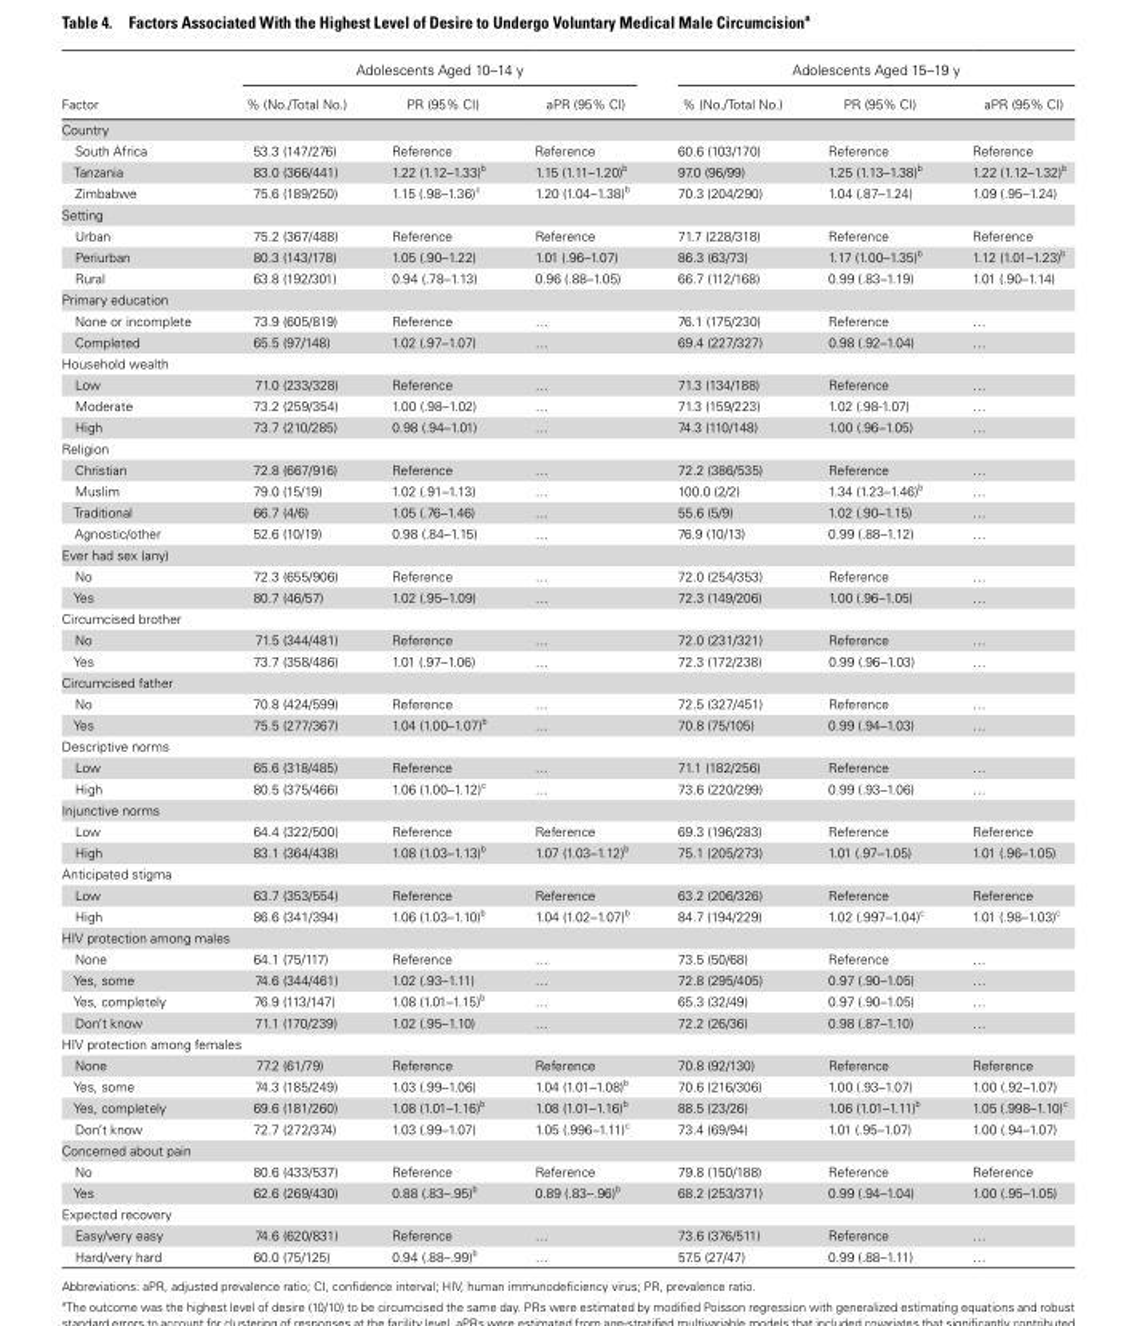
<table><thead><tr><td rowspan="2">Factor</td><td colspan="3">Adolescents Aged 10–14 y</td><td colspan="3">Adolescents Aged 15–19 y</td></tr><tr><td>% (No./Total No.)</td><td>PR (95% CI)</td><td>aPR (95% CI)</td><td>% (No./Total No.)</td><td>PR (95% CI)</td><td>aPR (95% CI)</td></tr></thead><tbody><tr><td colspan="7">Country</td></tr><tr><td>South Africa</td><td>53.3 (147/276)</td><td>Reference</td><td>Reference</td><td>60.6 (103/170)</td><td>Reference</td><td>Reference</td></tr><tr><td>Tanzania</td><td>83.0 (366/441)</td><td>1.22 (1.12–1.33)<sup>b</sup></td><td>1.15 (1.11–1.20)<sup>b</sup></td><td>97.0 (96/99)</td><td>1.25 (1.13–1.38)<sup>b</sup></td><td>1.22 (1.12–1.32)<sup>b</sup></td></tr><tr><td>Zimbabwe</td><td>75.6 (189/250)</td><td>1.15 (.98–1.36)<sup>c</sup></td><td>1.20 (1.04–1.38)<sup>b</sup></td><td>70.3 (204/290)</td><td>1.04 (.87–1.24)</td><td>1.09 (.95–1.24)</td></tr><tr><td colspan="7">Setting</td></tr><tr><td>Urban</td><td>75.2 (367/488)</td><td>Reference</td><td>Reference</td><td>71.7 (228/318)</td><td>Reference</td><td>Reference</td></tr><tr><td>Periurban</td><td>80.3 (143/178)</td><td>1.05 (.90–1.22)</td><td>1.01 (.96–1.07)</td><td>86.3 (63/73)</td><td>1.17 (1.00–1.35)<sup>b</sup></td><td>1.12 (1.01–1.23)<sup>b</sup></td></tr><tr><td>Rural</td><td>63.8 (192/301)</td><td>0.94 (.78–1.13)</td><td>0.96 (.88–1.05)</td><td>66.7 (112/168)</td><td>0.99 (.83–1.19)</td><td>1.01 (.90–1.14)</td></tr><tr><td colspan="7">Primary education</td></tr><tr><td>None or incomplete</td><td>73.9 (605/819)</td><td>Reference</td><td>…</td><td>76.1 (175/230)</td><td>Reference</td><td>…</td></tr><tr><td>Completed</td><td>65.5 (97/148)</td><td>1.02 (.97–1.07)</td><td>…</td><td>69.4 (227/327)</td><td>0.98 (.92–1.04)</td><td>…</td></tr><tr><td colspan="7">Household wealth</td></tr><tr><td>Low</td><td>71.0 (233/328)</td><td>Reference</td><td>…</td><td>71.3 (134/188)</td><td>Reference</td><td>…</td></tr><tr><td>Moderate</td><td>73.2 (259/354)</td><td>1.00 (.98–1.02)</td><td>…</td><td>71.3 (159/223)</td><td>1.02 (.98-1.07)</td><td>…</td></tr><tr><td>High</td><td>73.7 (210/285)</td><td>0.98 (.94–1.01)</td><td>…</td><td>74.3 (110/148)</td><td>1.00 (.96–1.05)</td><td>…</td></tr><tr><td colspan="7">Religion</td></tr><tr><td>Christian</td><td>72.8 (667/916)</td><td>Reference</td><td>…</td><td>72.2 (386/535)</td><td>Reference</td><td>…</td></tr><tr><td>Muslim</td><td>79.0 (15/19)</td><td>1.02 (.91–1.13)</td><td>…</td><td>100.0 (2/2)</td><td>1.34 (1.23–1.46)<sup>b</sup></td><td>…</td></tr><tr><td>Traditional</td><td>66.7 (4/6)</td><td>1.05 (.76–1.46)</td><td>…</td><td>55.6 (5/9)</td><td>1.02 (.90–1.15)</td><td>…</td></tr><tr><td>Agnostic/other</td><td>52.6 (10/19)</td><td>0.98 (.84–1.15)</td><td>…</td><td>76.9 (10/13)</td><td>0.99 (.88–1.12)</td><td>…</td></tr><tr><td colspan="7">Ever had sex (any)</td></tr><tr><td>No</td><td>72.3 (655/906)</td><td>Reference</td><td>…</td><td>72.0 (254/353)</td><td>Reference</td><td>…</td></tr><tr><td>Yes</td><td>80.7 (46/57)</td><td>1.02 (.95–1.09)</td><td>…</td><td>72.3 (149/206)</td><td>1.00 (.96–1.05)</td><td>…</td></tr><tr><td colspan="7">Circumcised brother</td></tr><tr><td>No</td><td>71.5 (344/481)</td><td>Reference</td><td>…</td><td>72.0 (231/321)</td><td>Reference</td><td>…</td></tr><tr><td>Yes</td><td>73.7 (358/486)</td><td>1.01 (.97–1.06)</td><td>…</td><td>72.3 (172/238)</td><td>0.99 (.96–1.03)</td><td>…</td></tr><tr><td colspan="7">Circumcised father</td></tr><tr><td>No</td><td>70.8 (424/599)</td><td>Reference</td><td>…</td><td>72.5 (327/451)</td><td>Reference</td><td>…</td></tr><tr><td>Yes</td><td>75.5 (277/367)</td><td>1.04 (1.00–1.07)<sup>b</sup></td><td>…</td><td>70.8 (75/105)</td><td>0.99 (.94–1.03)</td><td>…</td></tr><tr><td colspan="7">Descriptive norms</td></tr><tr><td>Low</td><td>65.6 (318/485)</td><td>Reference</td><td>…</td><td>71.1 (182/256)</td><td>Reference</td><td>…</td></tr><tr><td>High</td><td>80.5 (375/466)</td><td>1.06 (1.00–1.12)<sup>c</sup></td><td>…</td><td>73.6 (220/299)</td><td>0.99 (.93–1.06)</td><td>…</td></tr><tr><td colspan="7">Injunctive norms</td></tr><tr><td>Low</td><td>64.4 (322/500)</td><td>Reference</td><td>Reference</td><td>69.3 (196/283)</td><td>Reference</td><td>Reference</td></tr><tr><td>High</td><td>83.1 (364/438)</td><td>1.08 (1.03–1.13)<sup>b</sup></td><td>1.07 (1.03–1.12)<sup>b</sup></td><td>75.1 (205/273)</td><td>1.01 (.97–1.05)</td><td>1.01 (.96–1.05)</td></tr><tr><td colspan="7">Anticipated stigma</td></tr><tr><td>Low</td><td>63.7 (353/554)</td><td>Reference</td><td>Reference</td><td>63.2 (206/326)</td><td>Reference</td><td>Reference</td></tr><tr><td>High</td><td>86.6 (341/394)</td><td>1.06 (1.03–1.10)<sup>b</sup></td><td>1.04 (1.02–1.07)<sup>b</sup></td><td>84.7 (194/229)</td><td>1.02 (.997–1.04)<sup>c</sup></td><td>1.01 (.98–1.03)<sup>c</sup></td></tr><tr><td colspan="7">HIV protection among males</td></tr><tr><td>None</td><td>64.1 (75/117)</td><td>Reference</td><td>…</td><td>73.5 (50/68)</td><td>Reference</td><td>…</td></tr><tr><td>Yes, some</td><td>74.6 (344/461)</td><td>1.02 (.93–1.11)</td><td>…</td><td>72.8 (295/405)</td><td>0.97 (.90–1.05)</td><td>…</td></tr><tr><td>Yes, completely</td><td>76.9 (113/147)</td><td>1.08 (1.01–1.15)<sup>b</sup></td><td>…</td><td>65.3 (32/49)</td><td>0.97 (.90–1.05)</td><td>…</td></tr><tr><td>Don’t know</td><td>71.1 (170/239)</td><td>1.02 (.95–1.10)</td><td>…</td><td>72.2 (26/36)</td><td>0.98 (.87–1.10)</td><td>…</td></tr><tr><td colspan="7">HIV protection among females</td></tr><tr><td>None</td><td>77.2 (61/79)</td><td>Reference</td><td>Reference</td><td>70.8 (92/130)</td><td>Reference</td><td>Reference</td></tr><tr><td>Yes, some</td><td>74.3 (185/249)</td><td>1.03 (.99–1.06)</td><td>1.04 (1.01–1.08)<sup>b</sup></td><td>70.6 (216/306)</td><td>1.00 (.93–1.07)</td><td>1.00 (.92–1.07)</td></tr><tr><td>Yes, completely</td><td>69.6 (181/260)</td><td>1.08 (1.01–1.16)<sup>b</sup></td><td>1.08 (1.01–1.16)<sup>b</sup></td><td>88.5 (23/26)</td><td>1.06 (1.01–1.11)<sup>b</sup></td><td>1.05 (.998–1.10)<sup>c</sup></td></tr><tr><td>Don’t know</td><td>72.7 (272/374)</td><td>1.03 (.99–1.07)</td><td>1.05 (.996–1.11)<sup>c</sup></td><td>73.4 (69/94)</td><td>1.01 (.95–1.07)</td><td>1.00 (.94–1.07)</td></tr><tr><td colspan="7">Concerned about pain</td></tr><tr><td>No</td><td>80.6 (433/537)</td><td>Reference</td><td>Reference</td><td>79.8 (150/188)</td><td>Reference</td><td>Reference</td></tr><tr><td>Yes</td><td>62.6 (269/430)</td><td>0.88 (.83–.95)<sup>b</sup></td><td>0.89 (.83–.96)<sup>b</sup></td><td>68.2 (253/371)</td><td>0.99 (.94–1.04)</td><td>1.00 (.95–1.05)</td></tr><tr><td colspan="7">Expected recovery</td></tr><tr><td>Easy/very easy</td><td>74.6 (620/831)</td><td>Reference</td><td>…</td><td>73.6 (376/511)</td><td>Reference</td><td>…</td></tr><tr><td>Hard/very hard</td><td>60.0 (75/125)</td><td>0.94 (.88–.99)<sup>b</sup></td><td>…</td><td>57.5 (27/47)</td><td>0.99 (.88–1.11)</td><td>…</td></tr></tbody></table>